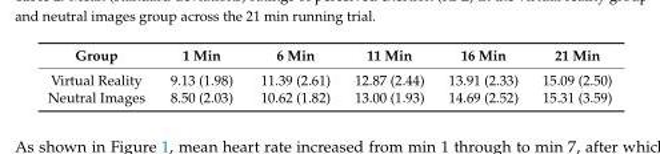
<table><thead><tr><td>Group</td><td>1 Min</td><td>6 Min</td><td>11 Min</td><td>16 Min</td><td>21 Min</td></tr></thead><tbody><tr><td>Virtual Reality</td><td>9.13 (1.98)</td><td>11.39 (2.61)</td><td>12.87 (2.44)</td><td>13.91 (2.33)</td><td>15.09 (2.50)</td></tr><tr><td>Neutral Images</td><td>8.50 (2.03)</td><td>10.62 (1.82)</td><td>13.00 (1.93)</td><td>14.69 (2.52)</td><td>15.31 (3.59)</td></tr></tbody></table>